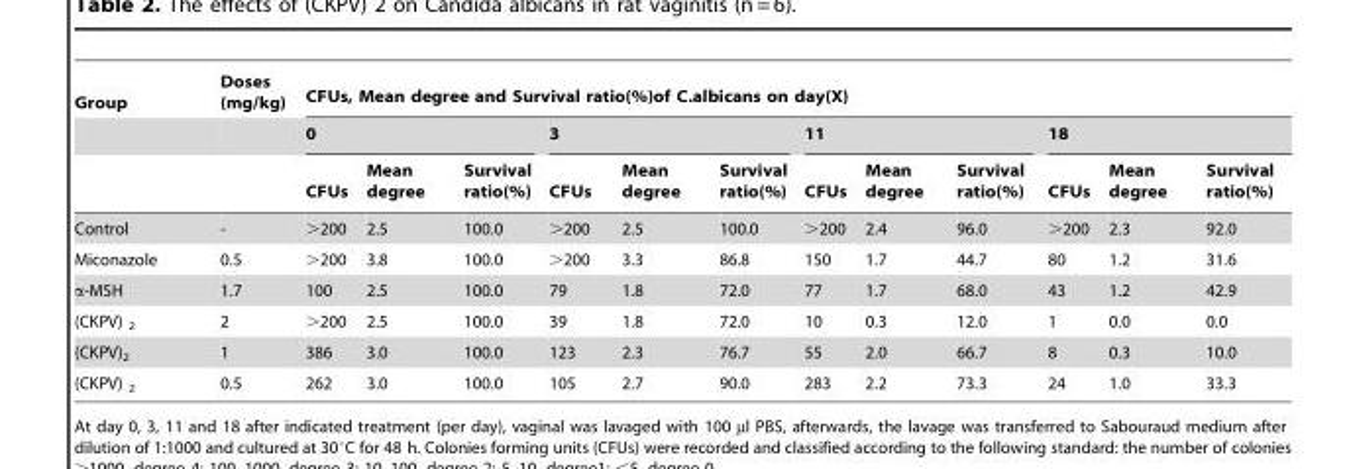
<table><thead><tr><td rowspan="3">Group</td><td rowspan="3">Doses (mg/kg)</td><td colspan="12">CFUs, Mean degree and Survival ratio(%)of C.albicans on day(X)</td></tr><tr><td colspan="3">0</td><td colspan="3">3</td><td colspan="3">11</td><td colspan="3">18</td></tr><tr><td>CFUs</td><td>Mean degree</td><td>Survival ratio(%)</td><td>CFUs</td><td>Mean degree</td><td>Survival ratio(%)</td><td>CFUs</td><td>Mean degree</td><td>Survival ratio(%)</td><td>CFUs</td><td>Mean degree</td><td>Survival ratio(%)</td></tr></thead><tbody><tr><td>Control</td><td>-</td><td>&gt;200</td><td>2.5</td><td>100.0</td><td>&gt;200</td><td>2.5</td><td>100.0</td><td>&gt;200</td><td>2.4</td><td>96.0</td><td>&gt;200</td><td>2.3</td><td>92.0</td></tr><tr><td>Miconazole</td><td>0.5</td><td>&gt;200</td><td>3.8</td><td>100.0</td><td>&gt;200</td><td>3.3</td><td>86.8</td><td>150</td><td>1.7</td><td>44.7</td><td>80</td><td>1.2</td><td>31.6</td></tr><tr><td>α-MSH</td><td>1.7</td><td>100</td><td>2.5</td><td>100.0</td><td>79</td><td>1.8</td><td>72.0</td><td>77</td><td>1.7</td><td>68.0</td><td>43</td><td>1.2</td><td>42.9</td></tr><tr><td>(CKPV) <sub>2</sub></td><td>2</td><td>&gt;200</td><td>2.5</td><td>100.0</td><td>39</td><td>1.8</td><td>72.0</td><td>10</td><td>0.3</td><td>12.0</td><td>1</td><td>0.0</td><td>0.0</td></tr><tr><td>(CKPV)<sub>2</sub></td><td>1</td><td>386</td><td>3.0</td><td>100.0</td><td>123</td><td>2.3</td><td>76.7</td><td>55</td><td>2.0</td><td>66.7</td><td>8</td><td>0.3</td><td>10.0</td></tr><tr><td>(CKPV) <sub>2</sub></td><td>0.5</td><td>262</td><td>3.0</td><td>100.0</td><td>105</td><td>2.7</td><td>90.0</td><td>283</td><td>2.2</td><td>73.3</td><td>24</td><td>1.0</td><td>33.3</td></tr></tbody></table>